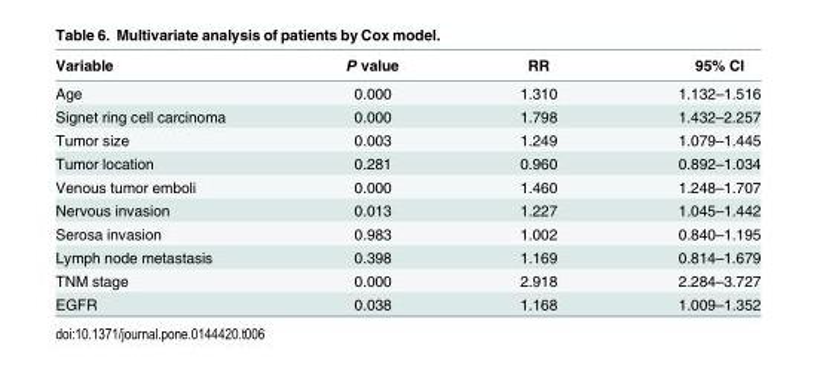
<table><thead><tr><td>Variable</td><td>P value</td><td>RR</td><td>95% CI</td></tr></thead><tbody><tr><td>Age</td><td>0.000</td><td>1.310</td><td>1.132–1.516</td></tr><tr><td>Signet ring cell carcinoma</td><td>0.000</td><td>1.798</td><td>1.432–2.257</td></tr><tr><td>Tumor size</td><td>0.003</td><td>1.249</td><td>1.079–1.445</td></tr><tr><td>Tumor location</td><td>0.281</td><td>0.960</td><td>0.892–1.034</td></tr><tr><td>Venous tumor emboli</td><td>0.000</td><td>1.460</td><td>1.248–1.707</td></tr><tr><td>Nervous invasion</td><td>0.013</td><td>1.227</td><td>1.045–1.442</td></tr><tr><td>Serosa invasion</td><td>0.983</td><td>1.002</td><td>0.840–1.195</td></tr><tr><td>Lymph node metastasis</td><td>0.398</td><td>1.169</td><td>0.814–1.679</td></tr><tr><td>TNM stage</td><td>0.000</td><td>2.918</td><td>2.284–3.727</td></tr><tr><td>EGFR</td><td>0.038</td><td>1.168</td><td>1.009–1.352</td></tr></tbody></table>